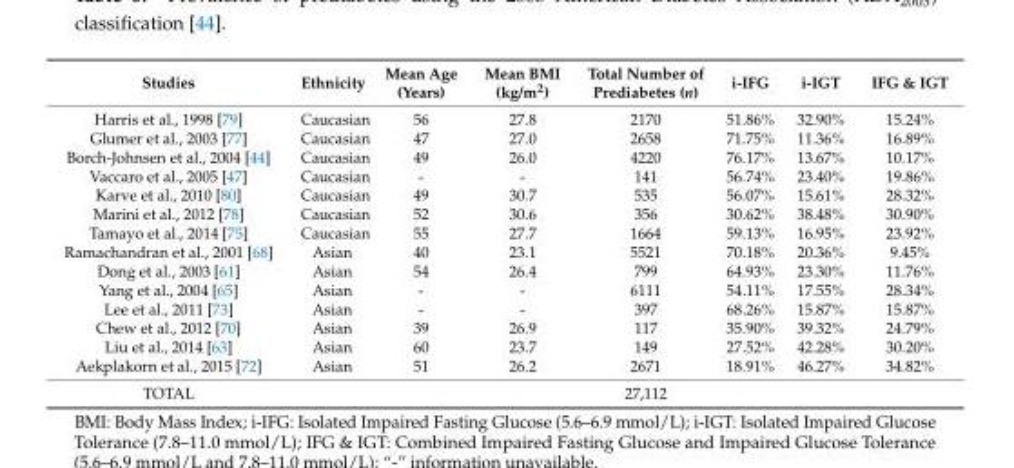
<table><thead><tr><td>Studies</td><td>Ethnicity</td><td>Mean Age (Years)</td><td>Mean BMI (kg/m<sup>2</sup>)</td><td>Total Number of Prediabetes (n)</td><td>i-IFG</td><td>i-IGT</td><td>IFG &amp; IGT</td></tr></thead><tbody><tr><td>Harris et al., 1998 [79]</td><td>Caucasian</td><td>56</td><td>27.8</td><td>2170</td><td>51.86%</td><td>32.90%</td><td>15.24%</td></tr><tr><td>Glumer et al., 2003 [77]</td><td>Caucasian</td><td>47</td><td>27.0</td><td>2658</td><td>71.75%</td><td>11.36%</td><td>16.89%</td></tr><tr><td>Borch-Johnsen et al., 2004 [44]</td><td>Caucasian</td><td>49</td><td>26.0</td><td>4220</td><td>76.17%</td><td>13.67%</td><td>10.17%</td></tr><tr><td>Vaccaro et al., 2005 [47]</td><td>Caucasian</td><td>-</td><td>-</td><td>141</td><td>56.74%</td><td>23.40%</td><td>19.86%</td></tr><tr><td>Karve et al., 2010 [80]</td><td>Caucasian</td><td>49</td><td>30.7</td><td>535</td><td>56.07%</td><td>15.61%</td><td>28.32%</td></tr><tr><td>Marini et al., 2012 [78]</td><td>Caucasian</td><td>52</td><td>30.6</td><td>356</td><td>30.62%</td><td>38.48%</td><td>30.90%</td></tr><tr><td>Tamayo et al., 2014 [75]</td><td>Caucasian</td><td>55</td><td>27.7</td><td>1664</td><td>59.13%</td><td>16.95%</td><td>23.92%</td></tr><tr><td>Ramachandran et al., 2001 [68]</td><td>Asian</td><td>40</td><td>23.1</td><td>5521</td><td>70.18%</td><td>20.36%</td><td>9.45%</td></tr><tr><td>Dong et al., 2003 [61]</td><td>Asian</td><td>54</td><td>26.4</td><td>799</td><td>64.93%</td><td>23.30%</td><td>11.76%</td></tr><tr><td>Yang et al., 2004 [65]</td><td>Asian</td><td>-</td><td>-</td><td>6111</td><td>54.11%</td><td>17.55%</td><td>28.34%</td></tr><tr><td>Lee et al., 2011 [73]</td><td>Asian</td><td>-</td><td>-</td><td>397</td><td>68.26%</td><td>15.87%</td><td>15.87%</td></tr><tr><td>Chew et al., 2012 [70]</td><td>Asian</td><td>39</td><td>26.9</td><td>117</td><td>35.90%</td><td>39.32%</td><td>24.79%</td></tr><tr><td>Liu et al., 2014 [63]</td><td>Asian</td><td>60</td><td>23.7</td><td>149</td><td>27.52%</td><td>42.28%</td><td>30.20%</td></tr><tr><td>Aekplakorn et al., 2015 [72]</td><td>Asian</td><td>51</td><td>26.2</td><td>2671</td><td>18.91%</td><td>46.27%</td><td>34.82%</td></tr><tr><td>TOTAL</td><td></td><td></td><td></td><td>27,112</td><td></td><td></td><td></td></tr></tbody></table>